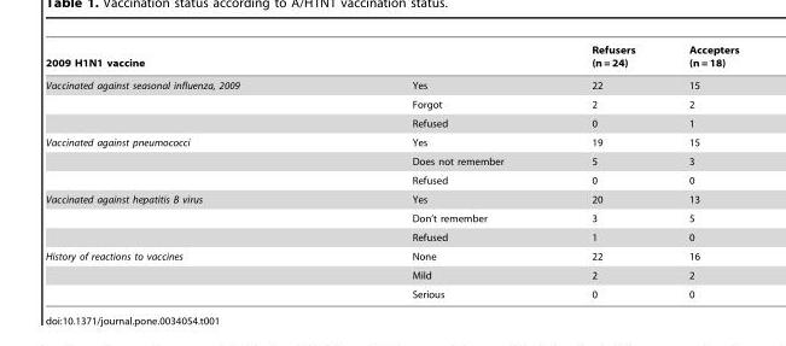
<table><thead><tr><td>2009 H1N1 vaccine</td><td></td><td>Refusers (n = 24)</td><td>Accepters (n = 18)</td></tr></thead><tbody><tr><td rowspan="3">Vaccinated against seasonal influenza, 2009</td><td>Yes</td><td>22</td><td>15</td></tr><tr><td>Forgot</td><td>2</td><td>2</td></tr><tr><td>Refused</td><td>0</td><td>1</td></tr><tr><td rowspan="3">Vaccinated against pneumococci</td><td>Yes</td><td>19</td><td>15</td></tr><tr><td>Does not remember</td><td>5</td><td>3</td></tr><tr><td>Refused</td><td>0</td><td>0</td></tr><tr><td rowspan="3">Vaccinated against hepatitis B virus</td><td>Yes</td><td>20</td><td>13</td></tr><tr><td>Don’t remember</td><td>3</td><td>5</td></tr><tr><td>Refused</td><td>1</td><td>0</td></tr><tr><td rowspan="3">History of reactions to vaccines</td><td>None</td><td>22</td><td>16</td></tr><tr><td>Mild</td><td>2</td><td>2</td></tr><tr><td>Serious</td><td>0</td><td>0</td></tr></tbody></table>